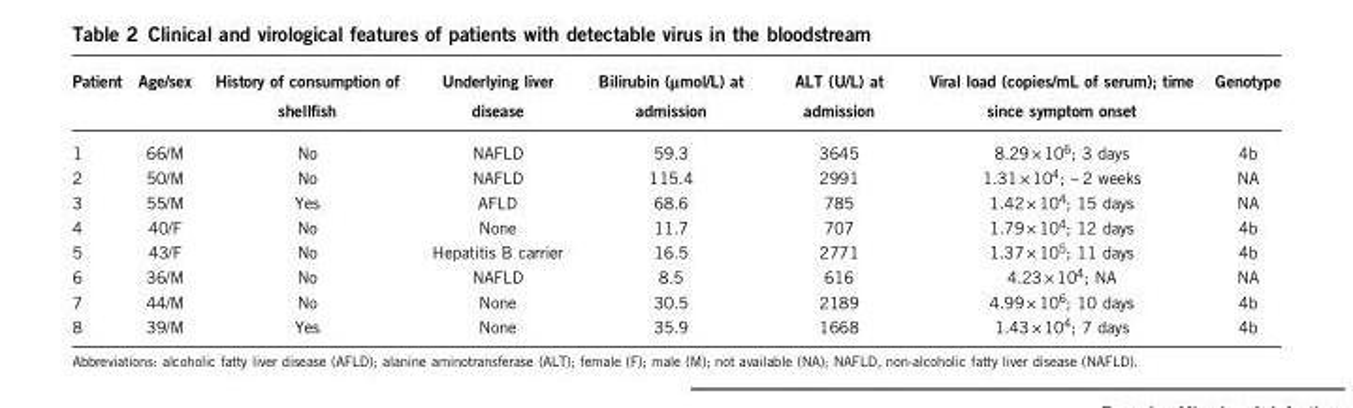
<table><thead><tr><td>Patient</td><td>Age/sex</td><td>History of consumption of shellfish</td><td>Underlying liver disease</td><td>Bilirubin (μmol/L) at admission</td><td>ALT (U/L) at admission</td><td>Viral load (copies/mL of serum); time since symptom onset</td><td>Genotype</td></tr></thead><tbody><tr><td>1</td><td>66/M</td><td>No</td><td>NAFLD</td><td>59.3</td><td>3645</td><td>8.29× 10<sup>6</sup>; 3 days</td><td>4b</td></tr><tr><td>2</td><td>50/M</td><td>No</td><td>NAFLD</td><td>115.4</td><td>2991</td><td>1.31× 10<sup>4</sup>; ~ 2 weeks</td><td>NA</td></tr><tr><td>3</td><td>55/M</td><td>Yes</td><td>AFLD</td><td>68.6</td><td>785</td><td>1.42× 10<sup>4</sup>; 15 days</td><td>NA</td></tr><tr><td>4</td><td>40/F</td><td>No</td><td>None</td><td>11.7</td><td>707</td><td>1.79× 10<sup>4</sup>; 12 days</td><td>4b</td></tr><tr><td>5</td><td>43/F</td><td>No</td><td>Hepatitis B carrier</td><td>16.5</td><td>2771</td><td>1.37× 10<sup>5</sup>; 11 days</td><td>4b</td></tr><tr><td>6</td><td>36/M</td><td>No</td><td>NAFLD</td><td>8.5</td><td>616</td><td>4.23× 10<sup>4</sup>; NA</td><td>NA</td></tr><tr><td>7</td><td>44/M</td><td>No</td><td>None</td><td>30.5</td><td>2189</td><td>4.99× 10<sup>6</sup>; 10 days</td><td>4b</td></tr><tr><td>8</td><td>39/M</td><td>Yes</td><td>None</td><td>35.9</td><td>1668</td><td>1.43× 10<sup>4</sup>; 7 days</td><td>4b</td></tr></tbody></table>